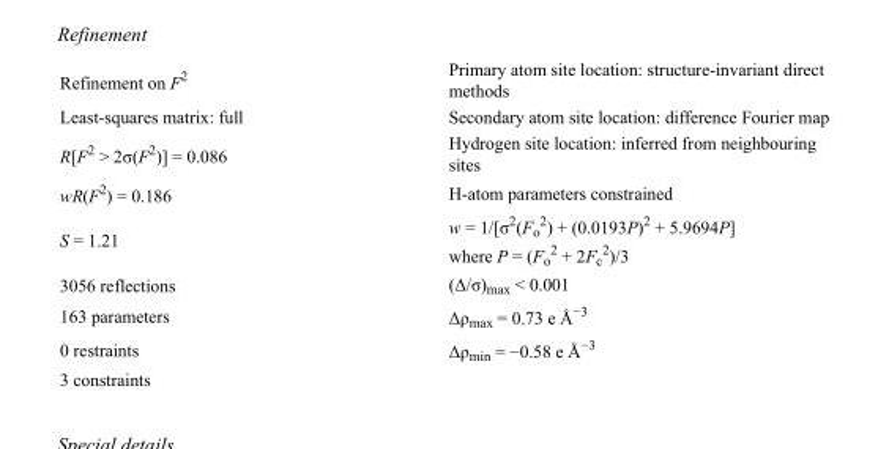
<table><tbody><tr><td>Refinement on F<sup>2</sup></td><td>Primary atom site location: structure-invariant direct methods</td></tr><tr><td>Least-squares matrix: full</td><td>Secondary atom site location: difference Fourier map</td></tr><tr><td>R[F<sup>2</sup> &gt; 2σ(F<sup>2</sup>)] = 0.086</td><td>Hydrogen site location: inferred from neighbouring sites</td></tr><tr><td>wR(F<sup>2</sup>) = 0.186</td><td>H-atom parameters constrained</td></tr><tr><td>S = 1.21</td><td>w = 1/[σ<sup>2</sup>(F<sub>o</sub> <sup>2</sup>) + (0.0193P)<sup>2</sup> + 5.9694P] where P = (F<sub>o</sub> <sup>2</sup> + 2F<sub>c</sub> <sup>2</sup>)/3</td></tr><tr><td>3056 reflections</td><td>(Δ/σ)<sub>max</sub> &lt; 0.001</td></tr><tr><td>163 parameters</td><td>Δρ<sub>max</sub> = 0.73 e Å<sup>−3</sup></td></tr><tr><td>0 restraints</td><td>Δρ<sub>min</sub> = −0.58 e Å<sup>−3</sup></td></tr><tr><td>3 constraints</td><td></td></tr></tbody></table>